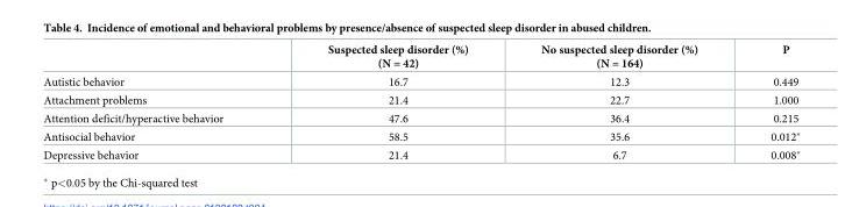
<table><thead><tr><td></td><td>Suspected sleep disorder (%) (N = 42)</td><td>No suspected sleep disorder (%) (N = 164)</td><td>P</td></tr></thead><tbody><tr><td>Autistic behavior</td><td>16.7</td><td>12.3</td><td>0.449</td></tr><tr><td>Attachment problems</td><td>21.4</td><td>22.7</td><td>1.000</td></tr><tr><td>Attention deficit/hyperactive behavior</td><td>47.6</td><td>36.4</td><td>0.215</td></tr><tr><td>Antisocial behavior</td><td>58.5</td><td>35.6</td><td>0.012*</td></tr><tr><td>Depressive behavior</td><td>21.4</td><td>6.7</td><td>0.008*</td></tr></tbody></table>